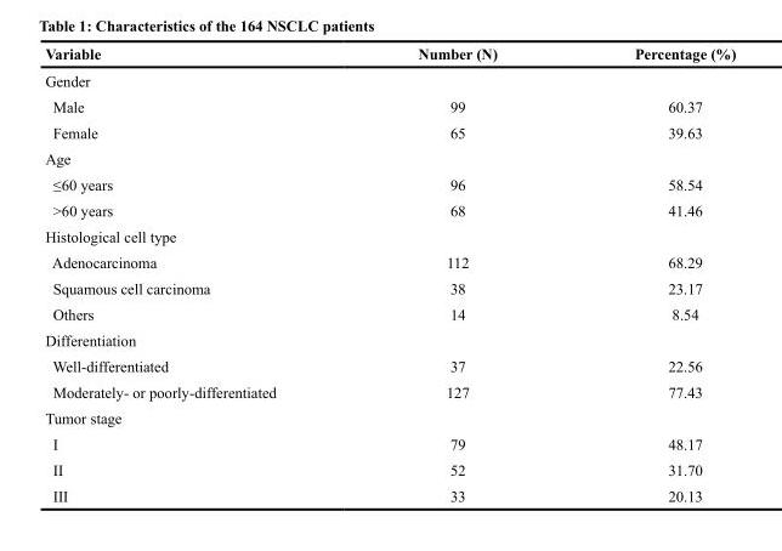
<table><thead><tr><td>Variable</td><td>Number (N)</td><td>Percentage (%)</td></tr></thead><tbody><tr><td colspan="3">Gender</td></tr><tr><td>Male</td><td>99</td><td>60.37</td></tr><tr><td>Female</td><td>65</td><td>39.63</td></tr><tr><td colspan="3">Age</td></tr><tr><td>≤60 years</td><td>96</td><td>58.54</td></tr><tr><td>&gt;60 years</td><td>68</td><td>41.46</td></tr><tr><td colspan="3">Histological cell type</td></tr><tr><td>Adenocarcinoma</td><td>112</td><td>68.29</td></tr><tr><td>Squamous cell carcinoma</td><td>38</td><td>23.17</td></tr><tr><td>Others</td><td>14</td><td>8.54</td></tr><tr><td colspan="3">Differentiation</td></tr><tr><td>Well-differentiated</td><td>37</td><td>22.56</td></tr><tr><td>Moderately- or poorly-differentiated</td><td>127</td><td>77.43</td></tr><tr><td colspan="3">Tumor stage</td></tr><tr><td>I</td><td>79</td><td>48.17</td></tr><tr><td>II</td><td>52</td><td>31.70</td></tr><tr><td>III</td><td>33</td><td>20.13</td></tr></tbody></table>